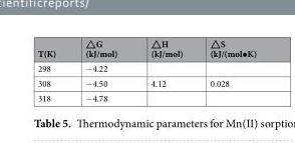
<table><thead><tr><td>T(K)</td><td>△G (kJ/mol)</td><td>△H (kJ/mol)</td><td>△S (kJ/(mol•K)</td></tr></thead><tbody><tr><td>298</td><td>−4.22</td><td></td><td></td></tr><tr><td>308</td><td>−4.50</td><td>4.12</td><td>0.028</td></tr><tr><td>318</td><td>−4.78</td><td></td><td></td></tr></tbody></table>